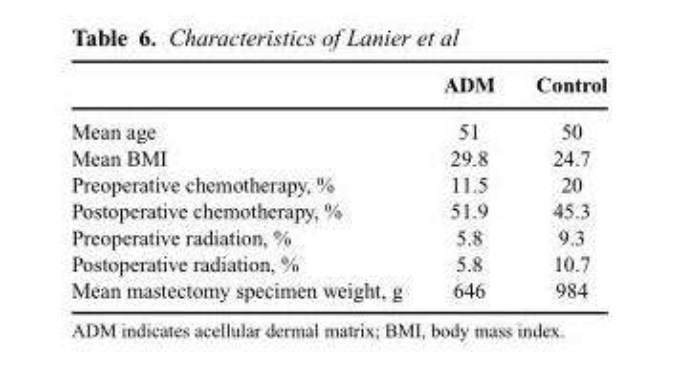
<table><thead><tr><td></td><td>ADM</td><td>Control</td></tr></thead><tbody><tr><td>Mean age</td><td>51</td><td>50</td></tr><tr><td>Mean BMI</td><td>29.8</td><td>24.7</td></tr><tr><td>Preoperative chemotherapy, %</td><td>11.5</td><td>20</td></tr><tr><td>Postoperative chemotherapy, %</td><td>51.9</td><td>45.3</td></tr><tr><td>Preoperative radiation, %</td><td>5.8</td><td>9.3</td></tr><tr><td>Postoperative radiation, %</td><td>5.8</td><td>10.7</td></tr><tr><td>Mean mastectomy specimen weight, g</td><td>646</td><td>984</td></tr></tbody></table>